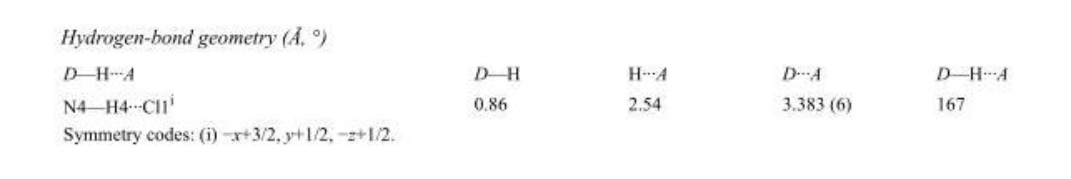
<table><tbody><tr><td>D—H···A</td><td>D—H</td><td>H···A</td><td>D···A</td><td>D—H···A</td></tr><tr><td>N4—H4···Cl1<sup>i</sup></td><td>0.86</td><td>2.54</td><td>3.383 (6)</td><td>167</td></tr></tbody></table>